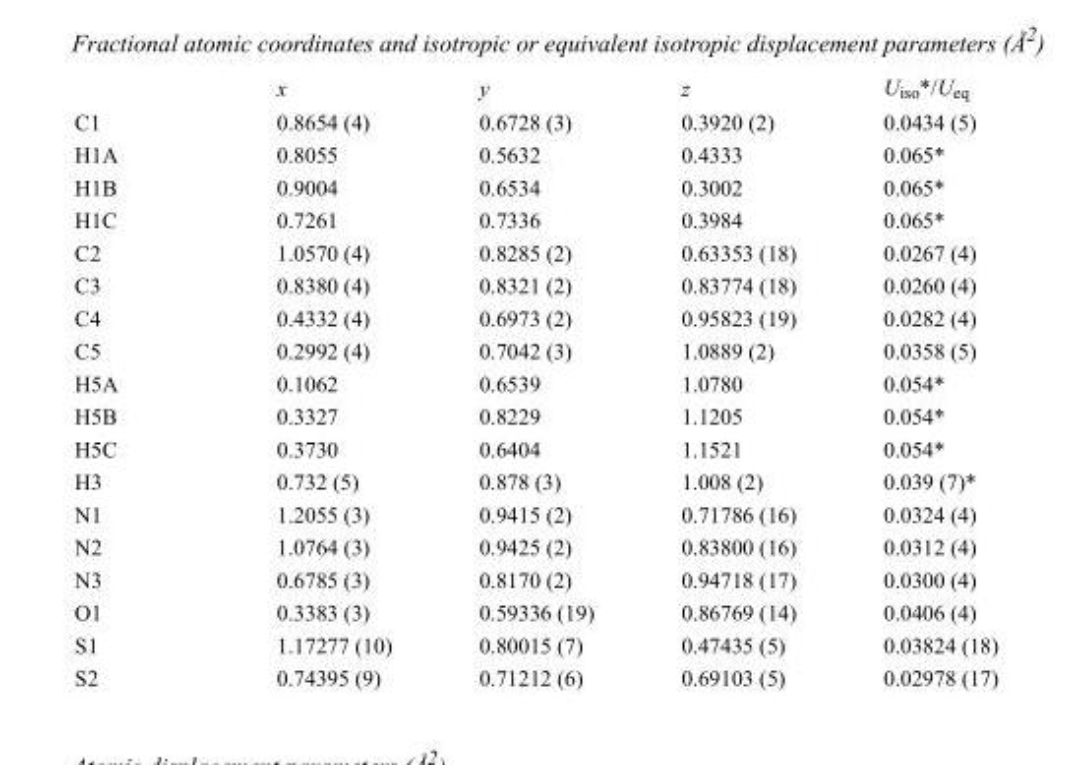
<table><thead><tr><td></td><td>x</td><td>y</td><td>z</td><td>U<sub>iso</sub>*/U<sub>eq</sub></td></tr></thead><tbody><tr><td>C1</td><td>0.8654 (4)</td><td>0.6728 (3)</td><td>0.3920 (2)</td><td>0.0434 (5)</td></tr><tr><td>H1A</td><td>0.8055</td><td>0.5632</td><td>0.4333</td><td>0.065*</td></tr><tr><td>H1B</td><td>0.9004</td><td>0.6534</td><td>0.3002</td><td>0.065*</td></tr><tr><td>H1C</td><td>0.7261</td><td>0.7336</td><td>0.3984</td><td>0.065*</td></tr><tr><td>C2</td><td>1.0570 (4)</td><td>0.8285 (2)</td><td>0.63353 (18)</td><td>0.0267 (4)</td></tr><tr><td>C3</td><td>0.8380 (4)</td><td>0.8321 (2)</td><td>0.83774 (18)</td><td>0.0260 (4)</td></tr><tr><td>C4</td><td>0.4332 (4)</td><td>0.6973 (2)</td><td>0.95823 (19)</td><td>0.0282 (4)</td></tr><tr><td>C5</td><td>0.2992 (4)</td><td>0.7042 (3)</td><td>1.0889 (2)</td><td>0.0358 (5)</td></tr><tr><td>H5A</td><td>0.1062</td><td>0.6539</td><td>1.0780</td><td>0.054*</td></tr><tr><td>H5B</td><td>0.3327</td><td>0.8229</td><td>1.1205</td><td>0.054*</td></tr><tr><td>H5C</td><td>0.3730</td><td>0.6404</td><td>1.1521</td><td>0.054*</td></tr><tr><td>H3</td><td>0.732 (5)</td><td>0.878 (3)</td><td>1.008 (2)</td><td>0.039 (7)*</td></tr><tr><td>N1</td><td>1.2055 (3)</td><td>0.9415 (2)</td><td>0.71786 (16)</td><td>0.0324 (4)</td></tr><tr><td>N2</td><td>1.0764 (3)</td><td>0.9425 (2)</td><td>0.83800 (16)</td><td>0.0312 (4)</td></tr><tr><td>N3</td><td>0.6785 (3)</td><td>0.8170 (2)</td><td>0.94718 (17)</td><td>0.0300 (4)</td></tr><tr><td>O1</td><td>0.3383 (3)</td><td>0.59336 (19)</td><td>0.86769 (14)</td><td>0.0406 (4)</td></tr><tr><td>S1</td><td>1.17277 (10)</td><td>0.80015 (7)</td><td>0.47435 (5)</td><td>0.03824 (18)</td></tr><tr><td>S2</td><td>0.74395 (9)</td><td>0.71212 (6)</td><td>0.69103 (5)</td><td>0.02978 (17)</td></tr></tbody></table>